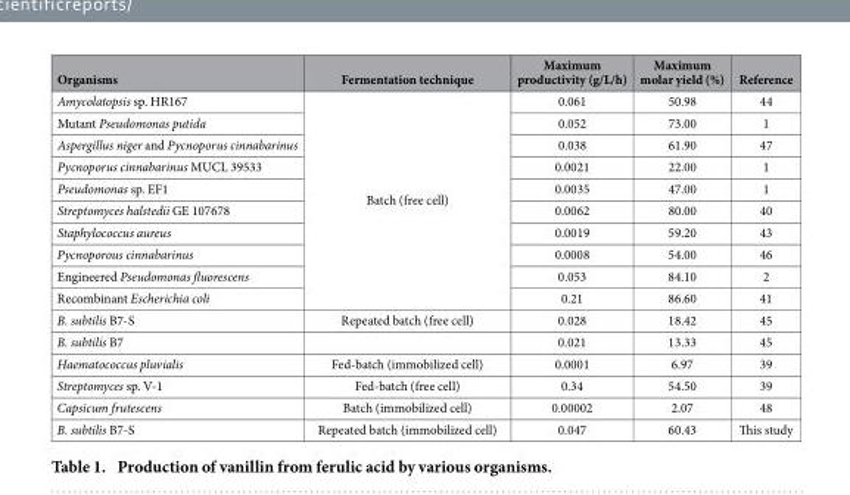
<table><thead><tr><td>Organisms</td><td>Fermentation technique</td><td>Maximum productivity (g/L/h)</td><td>Maximum molar yield (%)</td><td>Reference</td></tr></thead><tbody><tr><td>Amycolatopsis sp. HR167</td><td rowspan="10">Batch (free cell)</td><td>0.061</td><td>50.98</td><td>44</td></tr><tr><td>Mutant Pseudomonas putida</td><td>0.052</td><td>73.00</td><td>1</td></tr><tr><td>Aspergillus niger and Pycnoporus cinnabarinus</td><td>0.038</td><td>61.90</td><td>47</td></tr><tr><td>Pycnoporus cinnabarinus MUCL 39533</td><td>0.0021</td><td>22.00</td><td>1</td></tr><tr><td>Pseudomonas sp. EF1</td><td>0.0035</td><td>47.00</td><td>1</td></tr><tr><td>Streptomyces halstedii GE 107678</td><td>0.0062</td><td>80.00</td><td>40</td></tr><tr><td>Staphylococcus aureus</td><td>0.0019</td><td>59.20</td><td>43</td></tr><tr><td>Pycnoporous cinnabarinus</td><td>0.0008</td><td>54.00</td><td>46</td></tr><tr><td>Engineered Pseudomonas fluorescens</td><td>0.053</td><td>84.10</td><td>2</td></tr><tr><td>Recombinant Escherichia coli</td><td>0.21</td><td>86.60</td><td>41</td></tr><tr><td>B. subtilis B7-S</td><td>Repeated batch (free cell)</td><td>0.028</td><td>18.42</td><td>45</td></tr><tr><td>B. subtilis B7</td><td></td><td>0.021</td><td>13.33</td><td>45</td></tr><tr><td>Haematococcus pluvialis</td><td>Fed-batch (immobilized cell)</td><td>0.0001</td><td>6.97</td><td>39</td></tr><tr><td>Streptomyces sp. V-1</td><td>Fed-batch (free cell)</td><td>0.34</td><td>54.50</td><td>39</td></tr><tr><td>Capsicum frutescens</td><td>Batch (immobilized cell)</td><td>0.00002</td><td>2.07</td><td>48</td></tr><tr><td>B. subtilis B7-S</td><td>Repeated batch (immobilized cell)</td><td>0.047</td><td>60.43</td><td>This study</td></tr></tbody></table>